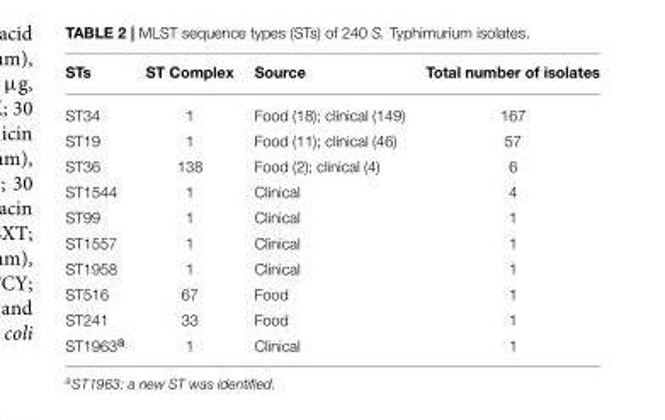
<table><thead><tr><td>STs</td><td>ST Complex</td><td>Source</td><td>Total number of isolates</td></tr></thead><tbody><tr><td>ST34</td><td>1</td><td>Food (18); clinical (149)</td><td>167</td></tr><tr><td>ST19</td><td>1</td><td>Food (11); clinical (46)</td><td>57</td></tr><tr><td>ST36</td><td>138</td><td>Food (2); clinical (4)</td><td>6</td></tr><tr><td>ST1544</td><td>1</td><td>Clinical</td><td>4</td></tr><tr><td>ST99</td><td>1</td><td>Clinical</td><td>1</td></tr><tr><td>ST1557</td><td>1</td><td>Clinical</td><td>1</td></tr><tr><td>ST1958</td><td>1</td><td>Clinical</td><td>1</td></tr><tr><td>ST516</td><td>67</td><td>Food</td><td>1</td></tr><tr><td>ST241</td><td>33</td><td>Food</td><td>1</td></tr><tr><td>ST1963<sup>a</sup></td><td>1</td><td>Clinical</td><td>1</td></tr></tbody></table>